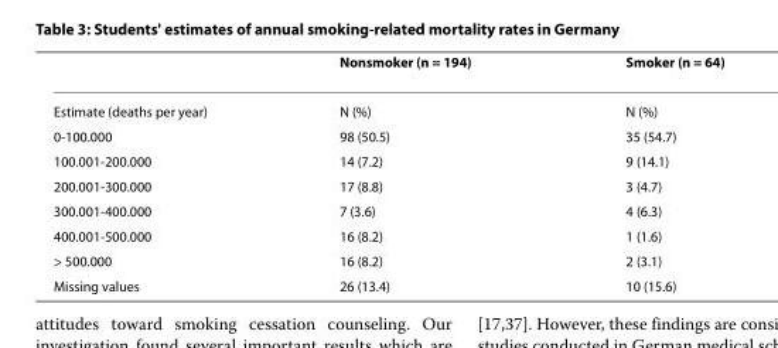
<table><thead><tr><td></td><td>Nonsmoker (n = 194)</td><td>Smoker (n = 64)</td></tr></thead><tbody><tr><td>Estimate (deaths per year)</td><td>N (%)</td><td>N (%)</td></tr><tr><td>0-100.000</td><td>98 (50.5)</td><td>35 (54.7)</td></tr><tr><td>100.001-200.000</td><td>14 (7.2)</td><td>9 (14.1)</td></tr><tr><td>200.001-300.000</td><td>17 (8.8)</td><td>3 (4.7)</td></tr><tr><td>300.001-400.000</td><td>7 (3.6)</td><td>4 (6.3)</td></tr><tr><td>400.001-500.000</td><td>16 (8.2)</td><td>1 (1.6)</td></tr><tr><td>&gt; 500.000</td><td>16 (8.2)</td><td>2 (3.1)</td></tr><tr><td>Missing values</td><td>26 (13.4)</td><td>10 (15.6)</td></tr></tbody></table>